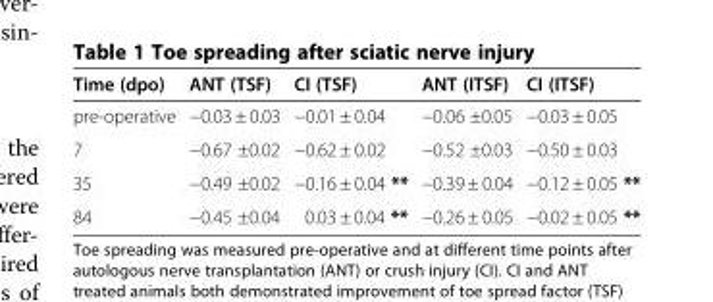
<table><thead><tr><td>Time (dpo)</td><td>ANT (TSF)</td><td>CI (TSF)</td><td>ANT (ITSF)</td><td>CI (ITSF)</td></tr></thead><tbody><tr><td>pre-operative</td><td>−0.03 ± 0.03</td><td>−0.01 ± 0.04</td><td>−0.06 ±0.05</td><td>−0.03 ± 0.05</td></tr><tr><td>7</td><td>−0.67 ±0.02</td><td>−0.62 ± 0.02</td><td>−0.52 ±0.03</td><td>−0.50 ± 0.03</td></tr><tr><td>35</td><td>−0.49 ±0.02</td><td>−0.16 ± 0.04 **</td><td>−0.39 ± 0.04</td><td>−0.12 ± 0.05 **</td></tr><tr><td>84</td><td>−0.45 ±0.04</td><td>0.03 ± 0.04 **</td><td>−0.26 ± 0.05</td><td>−0.02 ± 0.05 **</td></tr></tbody></table>